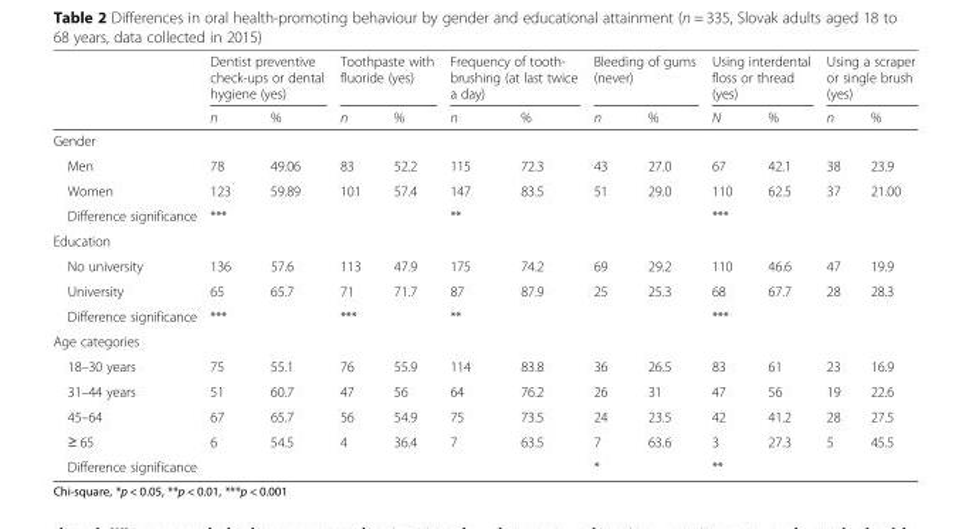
<table><thead><tr><td rowspan="2"></td><td colspan="2">Dentist preventive check-ups or dental hygiene (yes)</td><td colspan="2">Toothpaste with fluoride (yes)</td><td colspan="2">Frequency of tooth- brushing (at last twice a day)</td><td colspan="2">Bleeding of gums (never)</td><td colspan="2">Using interdental floss or thread (yes)</td><td colspan="2">Using a scraper or single brush (yes)</td></tr><tr><td>n</td><td>%</td><td>n</td><td>%</td><td>n</td><td>%</td><td>n</td><td>%</td><td>N</td><td>%</td><td>n</td><td>%</td></tr></thead><tbody><tr><td colspan="13">Gender</td></tr><tr><td>Men</td><td>78</td><td>49.06</td><td>83</td><td>52.2</td><td>115</td><td>72.3</td><td>43</td><td>27.0</td><td>67</td><td>42.1</td><td>38</td><td>23.9</td></tr><tr><td>Women</td><td>123</td><td>59.89</td><td>101</td><td>57.4</td><td>147</td><td>83.5</td><td>51</td><td>29.0</td><td>110</td><td>62.5</td><td>37</td><td>21.00</td></tr><tr><td>Difference significance</td><td colspan="2">***</td><td colspan="2"></td><td colspan="2">**</td><td colspan="2"></td><td colspan="2">***</td><td colspan="2"></td></tr><tr><td colspan="13">Education</td></tr><tr><td>No university</td><td>136</td><td>57.6</td><td>113</td><td>47.9</td><td>175</td><td>74.2</td><td>69</td><td>29.2</td><td>110</td><td>46.6</td><td>47</td><td>19.9</td></tr><tr><td>University</td><td>65</td><td>65.7</td><td>71</td><td>71.7</td><td>87</td><td>87.9</td><td>25</td><td>25.3</td><td>68</td><td>67.7</td><td>28</td><td>28.3</td></tr><tr><td>Difference significance</td><td colspan="2">***</td><td colspan="2">***</td><td colspan="2">**</td><td colspan="2"></td><td colspan="2">***</td><td colspan="2"></td></tr><tr><td colspan="13">Age categories</td></tr><tr><td>18–30 years</td><td>75</td><td>55.1</td><td>76</td><td>55.9</td><td>114</td><td>83.8</td><td>36</td><td>26.5</td><td>83</td><td>61</td><td>23</td><td>16.9</td></tr><tr><td>31–44 years</td><td>51</td><td>60.7</td><td>47</td><td>56</td><td>64</td><td>76.2</td><td>26</td><td>31</td><td>47</td><td>56</td><td>19</td><td>22.6</td></tr><tr><td>45–64</td><td>67</td><td>65.7</td><td>56</td><td>54.9</td><td>75</td><td>73.5</td><td>24</td><td>23.5</td><td>42</td><td>41.2</td><td>28</td><td>27.5</td></tr><tr><td>≥ 65</td><td>6</td><td>54.5</td><td>4</td><td>36.4</td><td>7</td><td>63.5</td><td>7</td><td>63.6</td><td>3</td><td>27.3</td><td>5</td><td>45.5</td></tr><tr><td>Difference significance</td><td colspan="2"></td><td colspan="2"></td><td colspan="2"></td><td colspan="2">*</td><td colspan="2">**</td><td colspan="2"></td></tr></tbody></table>